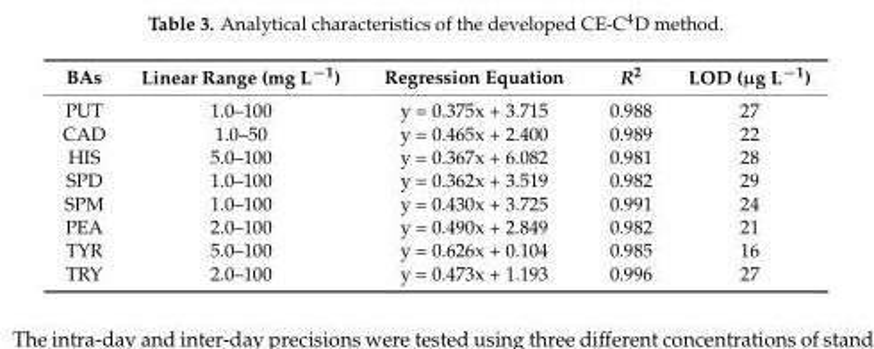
<table><thead><tr><td>BAs</td><td>Linear Range (mg L<sup>−1</sup>)</td><td>Regression Equation</td><td>R<sup>2</sup></td><td>LOD (µg L<sup>−1</sup>)</td></tr></thead><tbody><tr><td>PUT</td><td>1.0–100</td><td>y = 0.375x + 3.715</td><td>0.988</td><td>27</td></tr><tr><td>CAD</td><td>1.0–50</td><td>y = 0.465x + 2.400</td><td>0.989</td><td>22</td></tr><tr><td>HIS</td><td>5.0–100</td><td>y = 0.367x + 6.082</td><td>0.981</td><td>28</td></tr><tr><td>SPD</td><td>1.0–100</td><td>y = 0.362x + 3.519</td><td>0.982</td><td>29</td></tr><tr><td>SPM</td><td>1.0–100</td><td>y = 0.430x + 3.725</td><td>0.991</td><td>24</td></tr><tr><td>PEA</td><td>2.0–100</td><td>y = 0.490x + 2.849</td><td>0.982</td><td>21</td></tr><tr><td>TYR</td><td>5.0–100</td><td>y = 0.626x + 0.104</td><td>0.985</td><td>16</td></tr><tr><td>TRY</td><td>2.0–100</td><td>y = 0.473x + 1.193</td><td>0.996</td><td>27</td></tr></tbody></table>